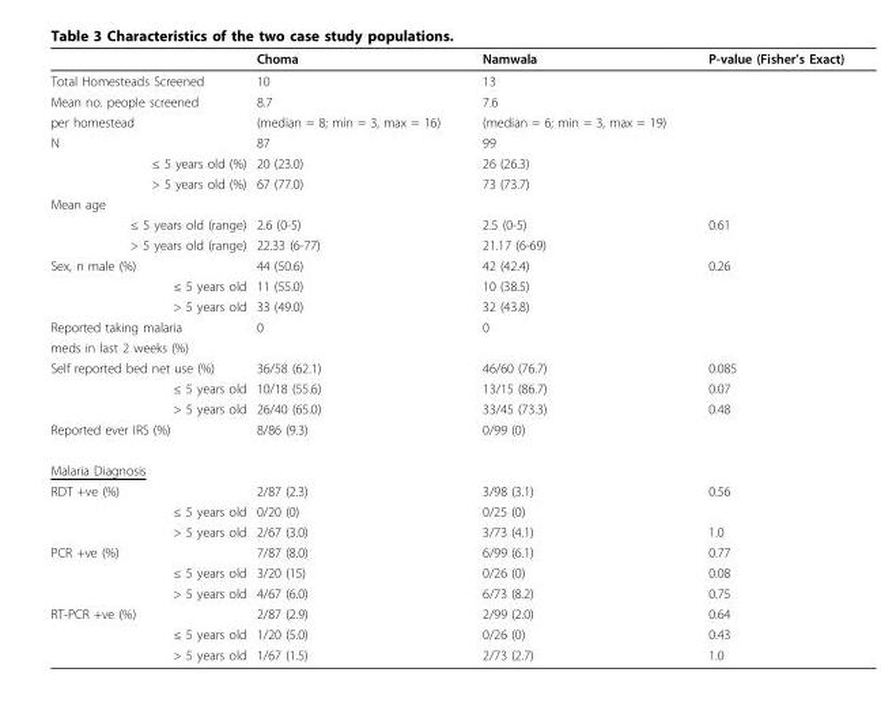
<table><thead><tr><td></td><td>Choma</td><td>Namwala</td><td>P-value (Fisher’s Exact)</td></tr></thead><tbody><tr><td>Total Homesteads Screened</td><td>10</td><td>13</td><td></td></tr><tr><td>Mean no. people screened</td><td>8.7</td><td>7.6</td><td></td></tr><tr><td>per homestead</td><td>(median = 8; min = 3, max = 16)</td><td>(median = 6; min = 3, max = 19)</td><td></td></tr><tr><td>N</td><td>87</td><td>99</td><td></td></tr><tr><td>≤ 5 years old (%)</td><td>20 (23.0)</td><td>26 (26.3)</td><td></td></tr><tr><td>&gt; 5 years old (%)</td><td>67 (77.0)</td><td>73 (73.7)</td><td></td></tr><tr><td colspan="4">Mean age</td></tr><tr><td>≤ 5 years old (range)</td><td>2.6 (0-5)</td><td>2.5 (0-5)</td><td>0.61</td></tr><tr><td>&gt; 5 years old (range)</td><td>22.33 (6-77)</td><td>21.17 (6-69)</td><td></td></tr><tr><td>Sex, n male (%)</td><td>44 (50.6)</td><td>42 (42.4)</td><td>0.26</td></tr><tr><td>≤ 5 years old</td><td>11 (55.0)</td><td>10 (38.5)</td><td></td></tr><tr><td>&gt; 5 years old</td><td>33 (49.0)</td><td>32 (43.8)</td><td></td></tr><tr><td>Reported taking malaria</td><td>0</td><td>0</td><td></td></tr><tr><td colspan="4">meds in last 2 weeks (%)</td></tr><tr><td>Self reported bed net use (%)</td><td>36/58 (62.1)</td><td>46/60 (76.7)</td><td>0.085</td></tr><tr><td>≤ 5 years old</td><td>10/18 (55.6)</td><td>13/15 (86.7)</td><td>0.07</td></tr><tr><td>&gt; 5 years old</td><td>26/40 (65.0)</td><td>33/45 (73.3)</td><td>0.48</td></tr><tr><td>Reported ever IRS (%)</td><td>8/86 (9.3)</td><td>0/99 (0)</td><td></td></tr><tr><td colspan="4">Malaria Diagnosis</td></tr><tr><td>RDT +ve (%)</td><td>2/87 (2.3)</td><td>3/98 (3.1)</td><td>0.56</td></tr><tr><td>≤ 5 years old</td><td>0/20 (0)</td><td>0/25 (0)</td><td></td></tr><tr><td>&gt; 5 years old</td><td>2/67 (3.0)</td><td>3/73 (4.1)</td><td>1.0</td></tr><tr><td>PCR +ve (%)</td><td>7/87 (8.0)</td><td>6/99 (6.1)</td><td>0.77</td></tr><tr><td>≤ 5 years old</td><td>3/20 (15)</td><td>0/26 (0)</td><td>0.08</td></tr><tr><td>&gt; 5 years old</td><td>4/67 (6.0)</td><td>6/73 (8.2)</td><td>0.75</td></tr><tr><td>RT-PCR +ve (%)</td><td>2/87 (2.9)</td><td>2/99 (2.0)</td><td>0.64</td></tr><tr><td>≤ 5 years old</td><td>1/20 (5.0)</td><td>0/26 (0)</td><td>0.43</td></tr><tr><td>&gt; 5 years old</td><td>1/67 (1.5)</td><td>2/73 (2.7)</td><td>1.0</td></tr></tbody></table>